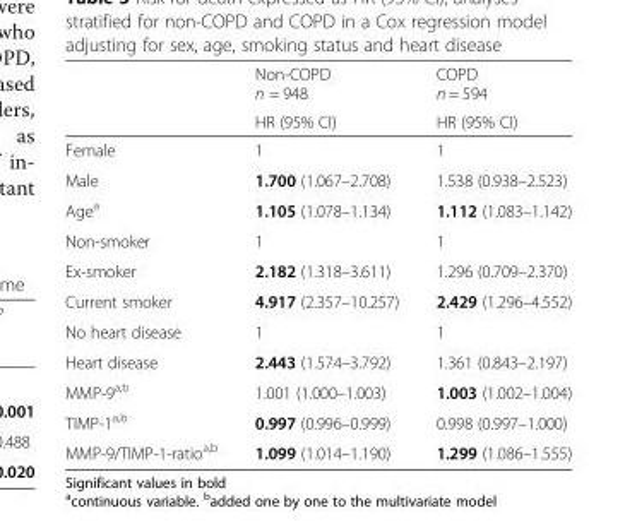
<table><thead><tr><td rowspan="2"></td><td rowspan="2">Non-COPD n = 948 HR (95% CI)</td><td rowspan="2">COPD n = 594 HR (95% CI)</td></tr><tr></tr></thead><tbody><tr><td>Female</td><td>1</td><td>1</td></tr><tr><td>Male</td><td>1.700 (1.067–2.708)</td><td>1.538 (0.938–2.523)</td></tr><tr><td>Age<sup>a</sup></td><td>1.105 (1.078–1.134)</td><td>1.112 (1.083–1.142)</td></tr><tr><td>Non-smoker</td><td>1</td><td>1</td></tr><tr><td>Ex-smoker</td><td>2.182 (1.318–3.611)</td><td>1.296 (0.709–2.370)</td></tr><tr><td>Current smoker</td><td>4.917 (2.357–10.257)</td><td>2.429 (1.296–4.552)</td></tr><tr><td>No heart disease</td><td>1</td><td>1</td></tr><tr><td>Heart disease</td><td>2.443 (1.574–3.792)</td><td>1.361 (0.843–2.197)</td></tr><tr><td>MMP-9<sup>a,b</sup></td><td>1.001 (1.000–1.003)</td><td>1.003 (1.002–1.004)</td></tr><tr><td>TIMP-1<sup>a,b</sup></td><td>0.997 (0.996–0.999)</td><td>0.998 (0.997–1.000)</td></tr><tr><td>MMP-9/TIMP-1-ratio<sup>a,b</sup></td><td>1.099 (1.014–1.190)</td><td>1.299 (1.086–1.555)</td></tr></tbody></table>